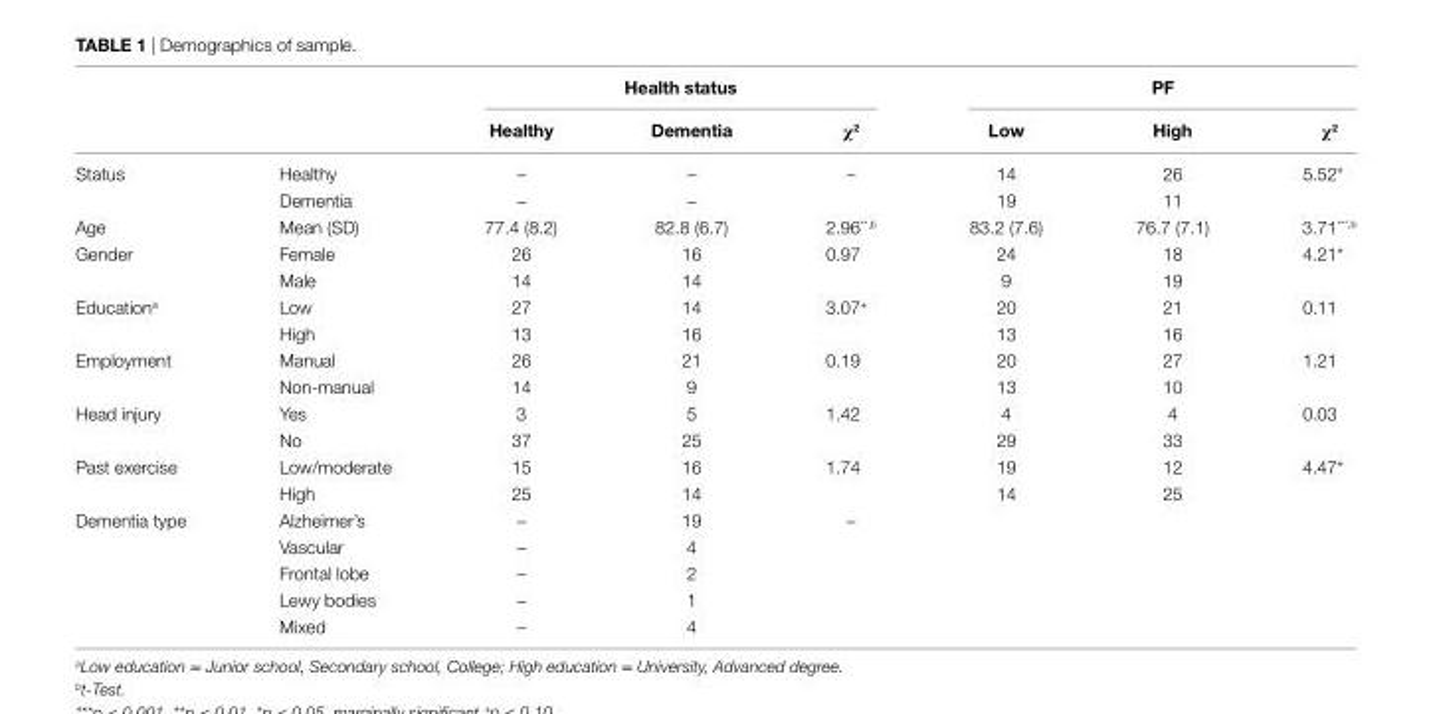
<table><thead><tr><td rowspan="2"></td><td rowspan="2"></td><td colspan="3">health status</td><td colspan="3">PF</td></tr><tr><td>healthy</td><td>Dementia</td><td>χ<sup>2</sup></td><td>low</td><td>high</td><td>χ<sup>2</sup></td></tr></thead><tbody><tr><td rowspan="2">Status</td><td>Healthy</td><td>–</td><td>–</td><td>–</td><td>14</td><td>26</td><td>5.52*</td></tr><tr><td>Dementia</td><td>–</td><td>–</td><td></td><td>19</td><td>11</td><td></td></tr><tr><td>Age</td><td>Mean (SD)</td><td>77.4 (8.2)</td><td>82.8 (6.7)</td><td>2.96**,<sup>b</sup></td><td>83.2 (7.6)</td><td>76.7 (7.1)</td><td>3.71***,<sup>b</sup></td></tr><tr><td rowspan="2">Gender</td><td>Female</td><td>26</td><td>16</td><td>0.97</td><td>24</td><td>18</td><td>4.21*</td></tr><tr><td>Male</td><td>14</td><td>14</td><td></td><td>9</td><td>19</td><td></td></tr><tr><td rowspan="2">Education<sup>a</sup></td><td>Low</td><td>27</td><td>14</td><td>3.07<sup>+</sup></td><td>20</td><td>21</td><td>0.11</td></tr><tr><td>High</td><td>13</td><td>16</td><td></td><td>13</td><td>16</td><td></td></tr><tr><td rowspan="2">Employment</td><td>Manual</td><td>26</td><td>21</td><td>0.19</td><td>20</td><td>27</td><td>1.21</td></tr><tr><td>Non-manual</td><td>14</td><td>9</td><td></td><td>13</td><td>10</td><td></td></tr><tr><td rowspan="2">Head injury</td><td>Yes</td><td>3</td><td>5</td><td>1.42</td><td>4</td><td>4</td><td>0.03</td></tr><tr><td>No</td><td>37</td><td>25</td><td></td><td>29</td><td>33</td><td></td></tr><tr><td rowspan="2">Past exercise</td><td>Low/moderate</td><td>15</td><td>16</td><td>1.74</td><td>19</td><td>12</td><td>4.47*</td></tr><tr><td>High</td><td>25</td><td>14</td><td></td><td>14</td><td>25</td><td></td></tr><tr><td rowspan="5">Dementia type</td><td>Alzheimer’s</td><td>–</td><td>19</td><td>–</td><td></td><td></td><td></td></tr><tr><td>Vascular</td><td>–</td><td>4</td><td></td><td></td><td></td><td></td></tr><tr><td>Frontal lobe</td><td>–</td><td>2</td><td></td><td></td><td></td><td></td></tr><tr><td>Lewy bodies</td><td>–</td><td>1</td><td></td><td></td><td></td><td></td></tr><tr><td>Mixed</td><td>–</td><td>4</td><td></td><td></td><td></td><td></td></tr></tbody></table>